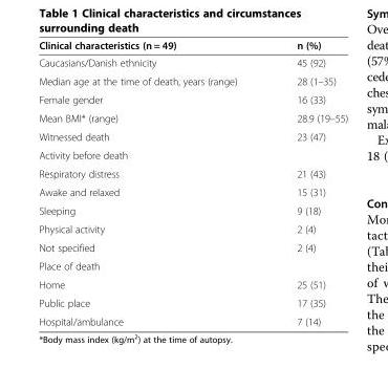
<table><thead><tr><td>Clinical characteristics (n = 49)</td><td>n (%)</td></tr></thead><tbody><tr><td>Caucasians/Danish ethnicity</td><td>45 (92)</td></tr><tr><td>Median age at the time of death, years (range)</td><td>28 (1–35)</td></tr><tr><td>Female gender</td><td>16 (33)</td></tr><tr><td>Mean BMI* (range)</td><td>28.9 (19–55)</td></tr><tr><td>Witnessed death</td><td>23 (47)</td></tr><tr><td colspan="2">Activity before death</td></tr><tr><td>Respiratory distress</td><td>21 (43)</td></tr><tr><td>Awake and relaxed</td><td>15 (31)</td></tr><tr><td>Sleeping</td><td>9 (18)</td></tr><tr><td>Physical activity</td><td>2 (4)</td></tr><tr><td>Not specified</td><td>2 (4)</td></tr><tr><td colspan="2">Place of death</td></tr><tr><td>Home</td><td>25 (51)</td></tr><tr><td>Public place</td><td>17 (35)</td></tr><tr><td>Hospital/ambulance</td><td>7 (14)</td></tr></tbody></table>